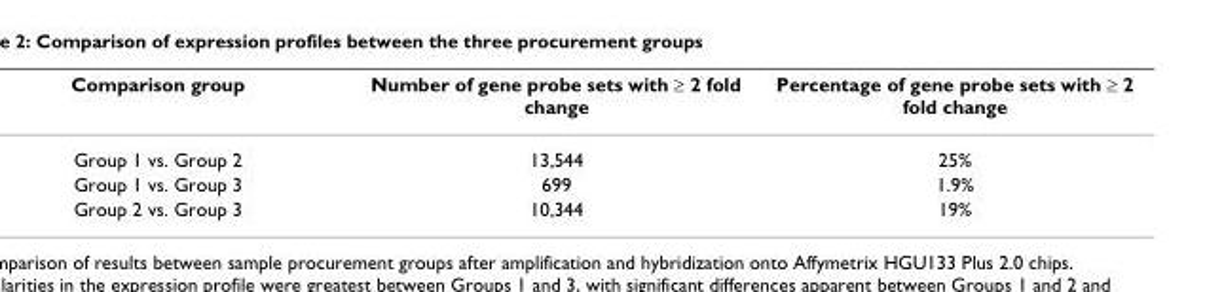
<table><thead><tr><td>Comparison group</td><td>Number of gene probe sets with ≥ 2 fold change</td><td>Percentage of gene probe sets with ≥ 2 fold change</td></tr></thead><tbody><tr><td>Group 1 vs. Group 2</td><td>13,544</td><td>25%</td></tr><tr><td>Group 1 vs. Group 3</td><td>699</td><td>1.9%</td></tr><tr><td>Group 2 vs. Group 3</td><td>10,344</td><td>19%</td></tr></tbody></table>